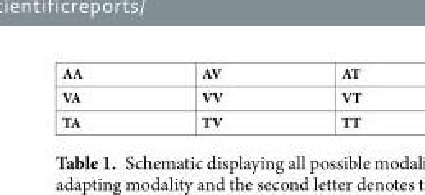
<table><tbody><tr><td>AA</td><td>AV</td><td>AT</td></tr><tr><td>VA</td><td>VV</td><td>VT</td></tr><tr><td>TA</td><td>TV</td><td>TT</td></tr></tbody></table>